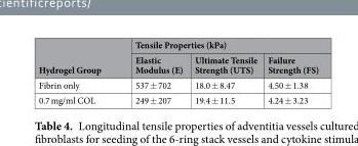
<table><thead><tr><td rowspan="2">Hydrogel Group</td><td colspan="3">Tensile Properties (kPa)</td></tr><tr><td>Elastic Modulus (E)</td><td>Ultimate Tensile Strength (UTS)</td><td>Failure Strength (FS)</td></tr></thead><tbody><tr><td>Fibrin only</td><td>537 ± 702</td><td>18.0 ± 8.47</td><td>4.50 ± 1.38</td></tr><tr><td>0.7 mg/ml COL</td><td>249 ± 207</td><td>19.4 ± 11.5</td><td>4.24 ± 3.23</td></tr></tbody></table>